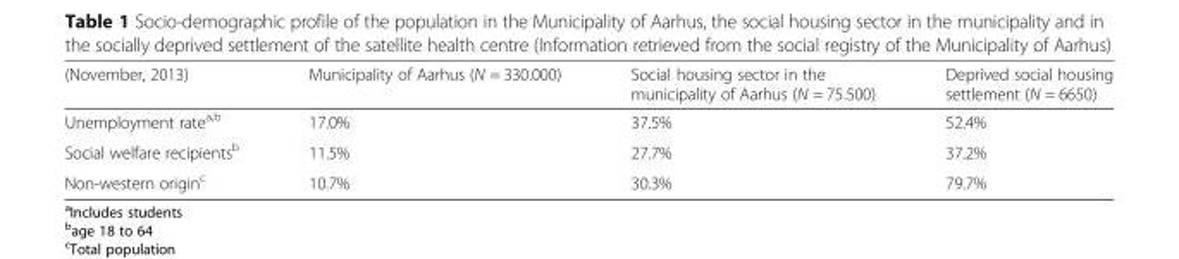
<table><thead><tr><td>(November, 2013)</td><td>Municipality of Aarhus (N = 330.000)</td><td>Social housing sector in the municipality of Aarhus (N = 75.500)</td><td>Deprived social housing settlement (N = 6650)</td></tr></thead><tbody><tr><td>Unemployment rate<sup>a,b</sup></td><td>17.0%</td><td>37.5%</td><td>52.4%</td></tr><tr><td>Social welfare recipients<sup>b</sup></td><td>11.5%</td><td>27.7%</td><td>37.2%</td></tr><tr><td>Non-western origin<sup>c</sup></td><td>10.7%</td><td>30.3%</td><td>79.7%</td></tr></tbody></table>